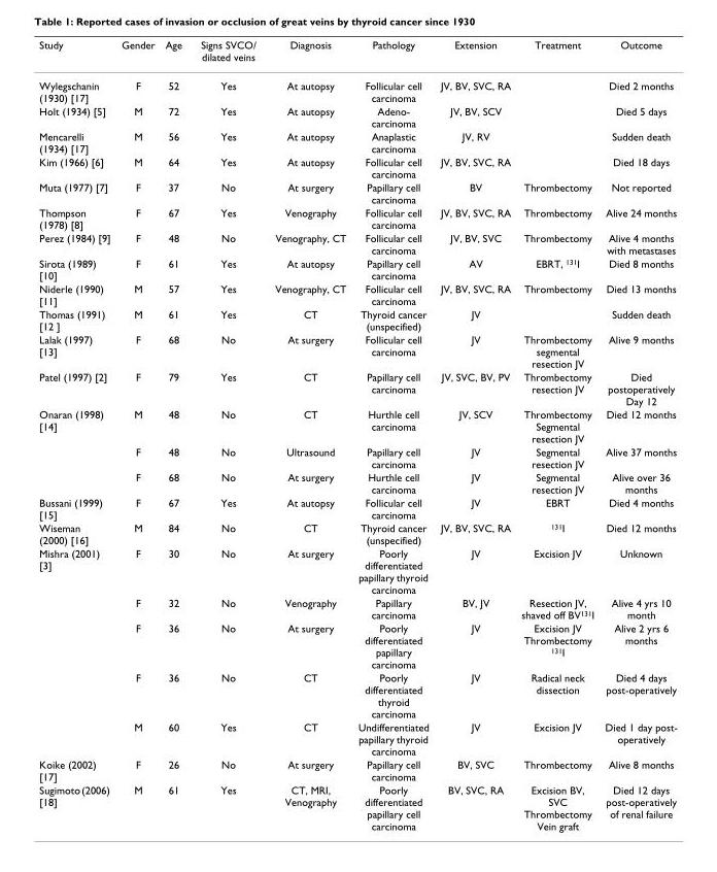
<table><thead><tr><td>Study</td><td>Gender</td><td>Age</td><td>Signs SVCO/ dilated veins</td><td>Diagnosis</td><td>Pathology</td><td>Extension</td><td>Treatment</td><td>Outcome</td></tr></thead><tbody><tr><td>Wylegschanin (1930) [17]</td><td>F</td><td>52</td><td>Yes</td><td>At autopsy</td><td>Follicular cell carcinoma</td><td>JV, BV, SVC, RA</td><td></td><td>Died 2 months</td></tr><tr><td>Holt (1934) [5]</td><td>M</td><td>72</td><td>Yes</td><td>At autopsy</td><td>Adeno- carcinoma</td><td>JV, BV, SCV</td><td></td><td>Died 5 days</td></tr><tr><td>Mencarelli (1934) [17]</td><td>M</td><td>56</td><td>Yes</td><td>At autopsy</td><td>Anaplastic carcinoma</td><td>JV, RV</td><td></td><td>Sudden death</td></tr><tr><td>Kim (1966) [6]</td><td>M</td><td>64</td><td>Yes</td><td>At autopsy</td><td>Follicular cell carcinoma</td><td>JV, BV, SVC, RA</td><td></td><td>Died 18 days</td></tr><tr><td>Muta (1977) [7]</td><td>F</td><td>37</td><td>No</td><td>At surgery</td><td>Papillary cell carcinoma</td><td>BV</td><td>Thrombectomy</td><td>Not reported</td></tr><tr><td>Thompson (1978) [8]</td><td>F</td><td>67</td><td>Yes</td><td>Venography</td><td>Follicular cell carcinoma</td><td>JV, BV, SVC, RA</td><td>Thrombectomy</td><td>Alive 24 months</td></tr><tr><td>Perez (1984) [9]</td><td>F</td><td>48</td><td>No</td><td>Venography, CT</td><td>Follicular cell carcinoma</td><td>JV, BV, SVC</td><td>Thrombectomy</td><td>Alive 4 months with metastases</td></tr><tr><td>Sirota (1989) [10]</td><td>F</td><td>61</td><td>Yes</td><td>At autopsy</td><td>Papillary cell carcinoma</td><td>AV</td><td>EBRT, <sup>131</sup>I</td><td>Died 8 months</td></tr><tr><td>Niderle (1990) [11]</td><td>M</td><td>57</td><td>Yes</td><td>Venography, CT</td><td>Follicular cell carcinoma</td><td>JV, BV, SVC, RA</td><td>Thrombectomy</td><td>Died 13 months</td></tr><tr><td>Thomas (1991) [12 ]</td><td>M</td><td>61</td><td>Yes</td><td>CT</td><td>Thyroid cancer (unspecified)</td><td>JV</td><td></td><td>Sudden death</td></tr><tr><td>Lalak (1997) [13]</td><td>F</td><td>68</td><td>No</td><td>At surgery</td><td>Follicular cell carcinoma</td><td>JV</td><td>Thrombectomy segmental resection JV</td><td>Alive 9 months</td></tr><tr><td>Patel (1997) [2]</td><td>F</td><td>79</td><td>Yes</td><td>CT</td><td>Papillary cell carcinoma</td><td>JV, SVC, BV, PV</td><td>Thrombectomy resection JV</td><td>Died postoperatively Day 12</td></tr><tr><td rowspan="3">Onaran (1998) [14]</td><td>M</td><td>48</td><td>No</td><td>CT</td><td>Hurthle cell carcinoma</td><td>JV, SCV</td><td>Thrombectomy Segmental resection JV</td><td>Died 12 months</td></tr><tr><td>F</td><td>48</td><td>No</td><td>Ultrasound</td><td>Papillary cell carcinoma</td><td>JV</td><td>Segmental resection JV</td><td>Alive 37 months</td></tr><tr><td>F</td><td>68</td><td>No</td><td>At surgery</td><td>Hurthle cell carcinoma</td><td>JV</td><td>Segmental resection JV</td><td>Alive over 36 months</td></tr><tr><td>Bussani (1999) [15]</td><td>F</td><td>67</td><td>Yes</td><td>At autopsy</td><td>Follicular cell carcinoma</td><td>JV</td><td>EBRT</td><td>Died 4 months</td></tr><tr><td>Wiseman (2000) [16]</td><td>M</td><td>84</td><td>No</td><td>CT</td><td>Thyroid cancer (unspecified)</td><td>JV, BV, SVC, RA</td><td><sup>131</sup>I</td><td>Died 12 months</td></tr><tr><td rowspan="5">Mishra (2001) [3]</td><td>F</td><td>30</td><td>No</td><td>At surgery</td><td>Poorly differentiated papillary thyroid carcinoma</td><td>JV</td><td>Excision JV</td><td>Unknown</td></tr><tr><td>F</td><td>32</td><td>No</td><td>Venography</td><td>Papillary carcinoma</td><td>BV, JV</td><td>Resection JV, shaved off BV<sup>131</sup>I</td><td>Alive 4 yrs 10 month</td></tr><tr><td>F</td><td>36</td><td>No</td><td>At surgery</td><td>Poorly differentiated papillary carcinoma</td><td>JV</td><td>Excision JV Thrombectomy <sup>131</sup>I</td><td>Alive 2 yrs 6 months</td></tr><tr><td>F</td><td>36</td><td>No</td><td>CT</td><td>Poorly differentiated thyroid carcinoma</td><td>JV</td><td>Radical neck dissection</td><td>Died 4 days post-operatively</td></tr><tr><td>M</td><td>60</td><td>Yes</td><td>CT</td><td>Undifferentiated papillary thyroid carcinoma</td><td>JV</td><td>Excision JV</td><td>Died 1 day post- operatively</td></tr><tr><td>Koike (2002) [17]</td><td>F</td><td>26</td><td>No</td><td>At surgery</td><td>Papillary cell carcinoma</td><td>BV, SVC</td><td>Thrombectomy</td><td>Alive 8 months</td></tr><tr><td>Sugimoto (2006) [18]</td><td>M</td><td>61</td><td>Yes</td><td>CT, MRI, Venography</td><td>Poorly differentiated papillary cell carcinoma</td><td>BV, SVC, RA</td><td>Excision BV, SVC Thrombectomy Vein graft</td><td>Died 12 days post-operatively of renal failure</td></tr></tbody></table>